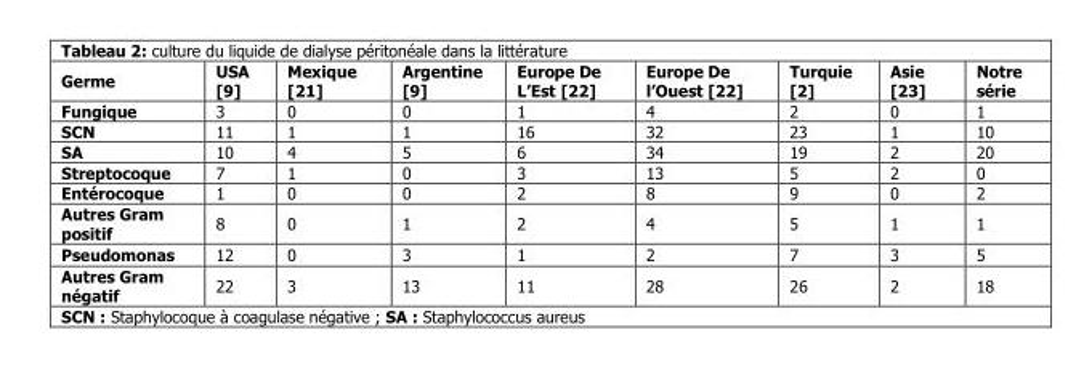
<table><thead><tr><td>Germe</td><td>USA [9]</td><td>Mexique [21]</td><td>Argentine [9]</td><td>Europe De L’Est [22]</td><td>Europe De l’Ouest [22]</td><td>Turquie [2]</td><td>Asie [23]</td><td>Notre série</td></tr></thead><tbody><tr><td>Fungique</td><td>3</td><td>0</td><td>0</td><td>1</td><td>4</td><td>2</td><td>0</td><td>1</td></tr><tr><td>SCN</td><td>11</td><td>1</td><td>1</td><td>16</td><td>32</td><td>23</td><td>1</td><td>10</td></tr><tr><td>SA</td><td>10</td><td>4</td><td>5</td><td>6</td><td>34</td><td>19</td><td>2</td><td>20</td></tr><tr><td>Streptocoque</td><td>7</td><td>1</td><td>0</td><td>3</td><td>13</td><td>5</td><td>2</td><td>0</td></tr><tr><td>Entérocoque</td><td>1</td><td>0</td><td>0</td><td>2</td><td>8</td><td>9</td><td>0</td><td>2</td></tr><tr><td>Autres Gram positif</td><td>8</td><td>0</td><td>1</td><td>2</td><td>4</td><td>5</td><td>1</td><td>1</td></tr><tr><td>Pseudomonas</td><td>12</td><td>0</td><td>3</td><td>1</td><td>2</td><td>7</td><td>3</td><td>5</td></tr><tr><td>Autres Gram négatif</td><td>22</td><td>3</td><td>13</td><td>11</td><td>28</td><td>26</td><td>2</td><td>18</td></tr></tbody></table>